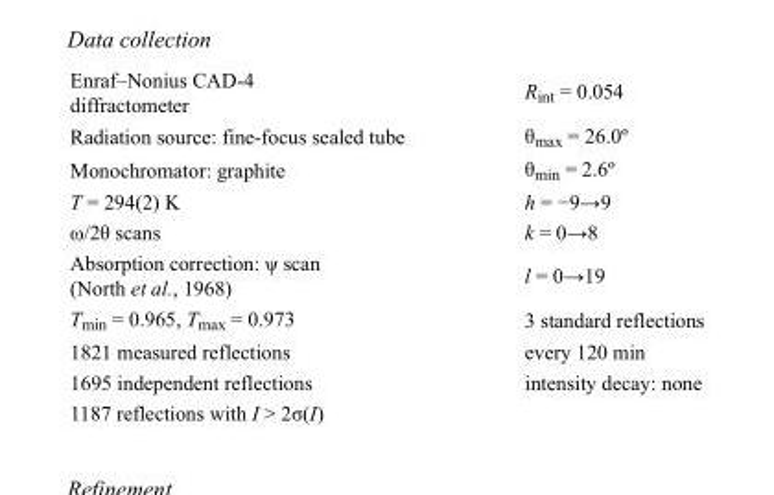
<table><tbody><tr><td>Enraf–Nonius CAD-4 diffractometer</td><td>R<sub>int</sub> = 0.054</td></tr><tr><td>Radiation source: fine-focus sealed tube</td><td>θ<sub>max</sub> = 26.0º</td></tr><tr><td>Monochromator: graphite</td><td>θ<sub>min</sub> = 2.6º</td></tr><tr><td>T = 294(2) K</td><td>h = −9→9</td></tr><tr><td>ω/2θ scans</td><td>k = 0→8</td></tr><tr><td>Absorption correction: ψ scan (North et al., 1968)</td><td>l = 0→19</td></tr><tr><td>T<sub>min</sub> = 0.965, T<sub>max</sub> = 0.973</td><td>3 standard reflections</td></tr><tr><td>1821 measured reflections</td><td>every 120 min</td></tr><tr><td>1695 independent reflections</td><td>intensity decay: none</td></tr><tr><td>1187 reflections with I &gt; 2σ(I)</td><td></td></tr></tbody></table>